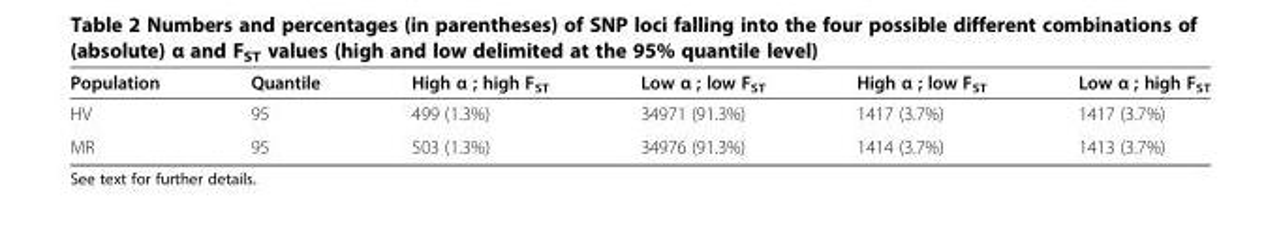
<table><thead><tr><td>Population</td><td>Quantile</td><td>High α ; high F<sub>ST</sub></td><td>Low α ; low F<sub>ST</sub></td><td>High α ; low F<sub>ST</sub></td><td>Low α ; high F<sub>ST</sub></td></tr></thead><tbody><tr><td>HV</td><td>95</td><td>499 (1.3%)</td><td>34971 (91.3%)</td><td>1417 (3.7%)</td><td>1417 (3.7%)</td></tr><tr><td>MR</td><td>95</td><td>503 (1.3%)</td><td>34976 (91.3%)</td><td>1414 (3.7%)</td><td>1413 (3.7%)</td></tr></tbody></table>